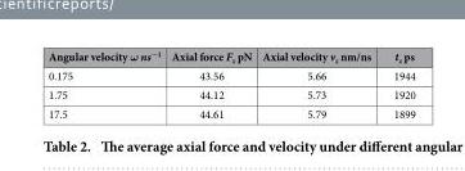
<table><thead><tr><td>Angular velocity ω ns<sup>−1</sup></td><td>Axial force F<sub>z</sub> pN</td><td>Axial velocity v<sub>z</sub> nm/ns</td><td>t<sub>z</sub> ps</td></tr></thead><tbody><tr><td>0.175</td><td>43.56</td><td>5.66</td><td>1944</td></tr><tr><td>1.75</td><td>44.12</td><td>5.73</td><td>1920</td></tr><tr><td>17.5</td><td>44.61</td><td>5.79</td><td>1899</td></tr></tbody></table>